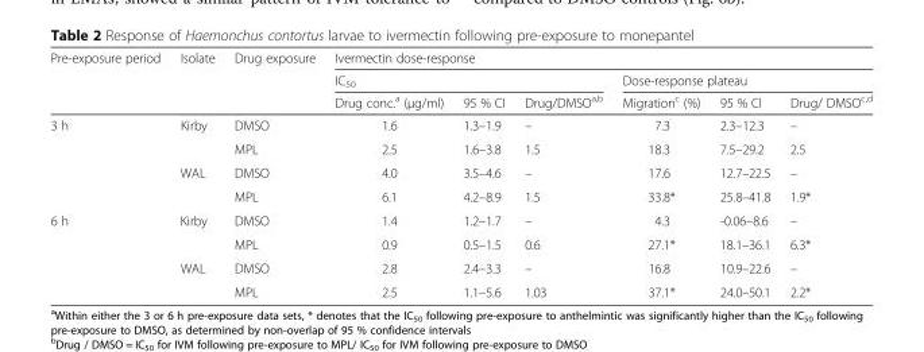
<table><thead><tr><td rowspan="3">Pre-exposure period</td><td rowspan="3">Isolate</td><td rowspan="3">Drug exposure</td><td colspan="6">Ivermectin dose-response</td></tr><tr><td colspan="3">IC<sub>50</sub></td><td colspan="3">Dose-response plateau</td></tr><tr><td>Drug conc.<sup>a</sup> (μg/ml)</td><td>95 % CI</td><td>Drug/DMSO<sup>a,b</sup></td><td>Migration<sup>c</sup> (%)</td><td>95 % CI</td><td>Drug/ DMSO<sup>c,d</sup></td></tr></thead><tbody><tr><td rowspan="4">3 h</td><td rowspan="2">Kirby</td><td>DMSO</td><td>1.6</td><td>1.3–1.9</td><td>–</td><td>7.3</td><td>2.3–12.3</td><td>–</td></tr><tr><td>MPL</td><td>2.5</td><td>1.6–3.8</td><td>1.5</td><td>18.3</td><td>7.5–29.2</td><td>2.5</td></tr><tr><td rowspan="2">WAL</td><td>DMSO</td><td>4.0</td><td>3.5–4.6</td><td>–</td><td>17.6</td><td>12.7–22.5</td><td>–</td></tr><tr><td>MPL</td><td>6.1</td><td>4.2–8.9</td><td>1.5</td><td>33.8*</td><td>25.8–41.8</td><td>1.9*</td></tr><tr><td rowspan="4">6 h</td><td rowspan="2">Kirby</td><td>DMSO</td><td>1.4</td><td>1.2–1.7</td><td>–</td><td>4.3</td><td>-0.06–8.6</td><td>–</td></tr><tr><td>MPL</td><td>0.9</td><td>0.5–1.5</td><td>0.6</td><td>27.1*</td><td>18.1–36.1</td><td>6.3*</td></tr><tr><td rowspan="2">WAL</td><td>DMSO</td><td>2.8</td><td>2.4–3.3</td><td>–</td><td>16.8</td><td>10.9–22.6</td><td>–</td></tr><tr><td>MPL</td><td>2.5</td><td>1.1–5.6</td><td>1.03</td><td>37.1*</td><td>24.0–50.1</td><td>2.2*</td></tr></tbody></table>